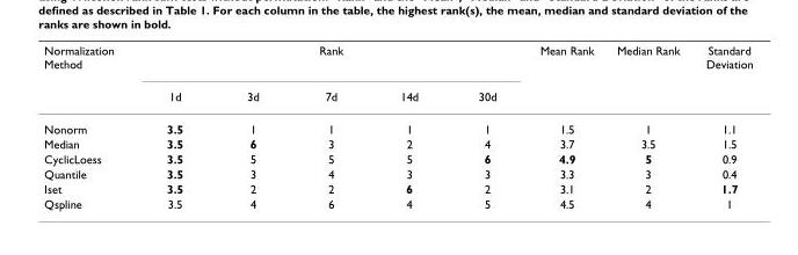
<table><thead><tr><td rowspan="2">Normalization Method</td><td colspan="5">Rank</td><td rowspan="2">Mean Rank</td><td rowspan="2">Median Rank</td><td rowspan="2">Standard Deviation</td></tr><tr><td>1d</td><td>3d</td><td>7d</td><td>14d</td><td>30d</td></tr></thead><tbody><tr><td>Nonorm</td><td>3.5</td><td>1</td><td>1</td><td>1</td><td>1</td><td>1.5</td><td>1</td><td>1.1</td></tr><tr><td>Median</td><td>3.5</td><td>6</td><td>3</td><td>2</td><td>4</td><td>3.7</td><td>3.5</td><td>1.5</td></tr><tr><td>CyclicLoess</td><td>3.5</td><td>5</td><td>5</td><td>5</td><td>6</td><td>4.9</td><td>5</td><td>0.9</td></tr><tr><td>Quantile</td><td>3.5</td><td>3</td><td>4</td><td>3</td><td>3</td><td>3.3</td><td>3</td><td>0.4</td></tr><tr><td>Iset</td><td>3.5</td><td>2</td><td>2</td><td>6</td><td>2</td><td>3.1</td><td>2</td><td>1.7</td></tr><tr><td>Qspline</td><td>3.5</td><td>4</td><td>6</td><td>4</td><td>5</td><td>4.5</td><td>4</td><td>1</td></tr></tbody></table>